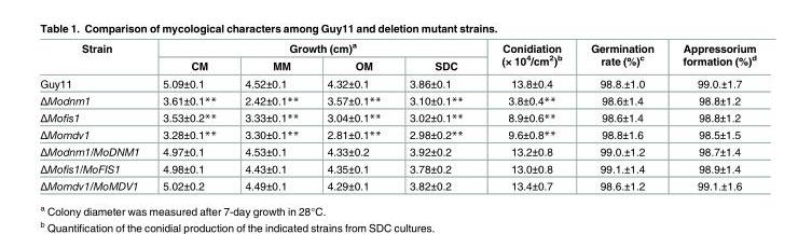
<table><thead><tr><td rowspan="2">Strain</td><td colspan="4">Growth (cm)<sup>a</sup></td><td rowspan="2">Conidiation (× 10<sup>4</sup>/cm<sup>2</sup>)<sup>b</sup></td><td rowspan="2">Germination rate (%)<sup>c</sup></td><td rowspan="2">Appressorium formation (%)<sup>d</sup></td></tr><tr><td>CM</td><td>MM</td><td>OM</td><td>SDC</td></tr></thead><tbody><tr><td>Guy11</td><td>5.09±0.1</td><td>4.52±0.1</td><td>4.32±0.1</td><td>3.86±0.1</td><td>13.8±0.4</td><td>98.8.±1.0</td><td>99.0.±1.7</td></tr><tr><td>ΔModnm1</td><td>3.61±0.1**</td><td>2.42±0.1**</td><td>3.57±0.1**</td><td>3.10±0.1**</td><td>3.8±0.4**</td><td>98.6±1.4</td><td>98.8±1.2</td></tr><tr><td>ΔMofis1</td><td>3.53±0.2**</td><td>3.33±0.1**</td><td>3.04±0.1**</td><td>3.02±0.1**</td><td>8.9±0.6**</td><td>98.6±1.4</td><td>98.8±1.2</td></tr><tr><td>ΔMomdv1</td><td>3.28±0.1**</td><td>3.30±0.1**</td><td>2.81±0.1**</td><td>2.98±0.2**</td><td>9.6±0.8**</td><td>98.8±1.6</td><td>98.5±1.5</td></tr><tr><td>ΔModnm1/MoDNM1</td><td>4.97±0.1</td><td>4.53±0.1</td><td>4.33±0.2</td><td>3.92±0.2</td><td>13.2±0.8</td><td>99.0.±1.2</td><td>98.7±1.4</td></tr><tr><td>ΔMofis1/MoFIS1</td><td>4.98±0.1</td><td>4.43±0.1</td><td>4.35±0.1</td><td>3.78±0.2</td><td>13.0±0.8</td><td>99.1.±1.4</td><td>98.9±1.4</td></tr><tr><td>ΔMomdv1/MoMDV1</td><td>5.02±0.2</td><td>4.49±0.1</td><td>4.29±0.1</td><td>3.82±0.2</td><td>13.4±0.7</td><td>98.6.±1.2</td><td>99.1.±1.6</td></tr></tbody></table>